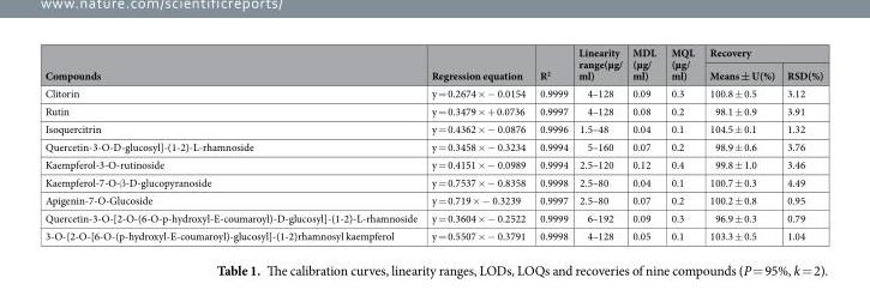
<table><thead><tr><td rowspan="2">Compounds</td><td rowspan="2">Regression equation</td><td rowspan="2">R<sup>2</sup></td><td rowspan="2">Linearity range(µg/ ml)</td><td rowspan="2">MDL (µg/ ml)</td><td rowspan="2">MQL (µg/ ml)</td><td colspan="2">Recovery</td></tr><tr><td>Means ± U(%)</td><td>RSD(%)</td></tr></thead><tbody><tr><td>Clitorin</td><td>y = 0.2674 × − 0.0154</td><td>0.9999</td><td>4–128</td><td>0.09</td><td>0.3</td><td>100.8 ± 0.5</td><td>3.12</td></tr><tr><td>Rutin</td><td>y = 0.3479 × + 0.0736</td><td>0.9997</td><td>4–128</td><td>0.08</td><td>0.2</td><td>98.1 ± 0.9</td><td>3.91</td></tr><tr><td>Isoquercitrin</td><td>y = 0.4362 × − 0.0876</td><td>0.9996</td><td>1.5–48</td><td>0.04</td><td>0.1</td><td>104.5 ± 0.1</td><td>1.32</td></tr><tr><td>Quercetin-3-O-D-glucosyl]-(1-2)-L-rhamnoside</td><td>y = 0.3458 × − 0.3234</td><td>0.9994</td><td>5–160</td><td>0.07</td><td>0.2</td><td>98.9 ± 0.6</td><td>3.76</td></tr><tr><td>Kaempferol-3-O-rutinoside</td><td>y = 0.4151 × − 0.0989</td><td>0.9994</td><td>2.5–120</td><td>0.12</td><td>0.4</td><td>99.8 ± 1.0</td><td>3.46</td></tr><tr><td>Kaempferol-7-O-β-D-glucopyranoside</td><td>y = 0.7537 × − 0.8358</td><td>0.9998</td><td>2.5–80</td><td>0.04</td><td>0.1</td><td>100.7 ± 0.3</td><td>4.49</td></tr><tr><td>Apigenin-7-O-Glucoside</td><td>y = 0.719 × − 0.3239</td><td>0.9997</td><td>2.5–80</td><td>0.07</td><td>0.2</td><td>100.2 ± 0.8</td><td>0.95</td></tr><tr><td>Quercetin-3-O-[2-O-(6-O-p-hydroxyl-E-coumaroyl)-D-glucosyl]-(1-2)-L-rhamnoside</td><td>y = 0.3604 × − 0.2522</td><td>0.9999</td><td>6–192</td><td>0.09</td><td>0.3</td><td>96.9 ± 0.3</td><td>0.79</td></tr><tr><td>3-O-{2-O-[6-O-(p-hydroxyl-E-coumaroyl)-glucosyl]-(1-2)rhamnosyl kaempferol</td><td>y = 0.5507 × − 0.3791</td><td>0.9998</td><td>4–128</td><td>0.05</td><td>0.1</td><td>103.3 ± 0.5</td><td>1.04</td></tr></tbody></table>